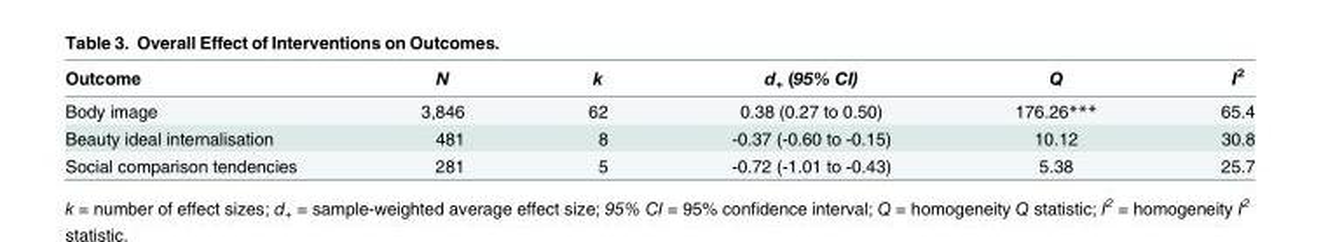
<table><thead><tr><td>Outcome</td><td>N</td><td>k</td><td>d<sub>+</sub> (95% CI)</td><td>Q</td><td>I<sup>2</sup></td></tr></thead><tbody><tr><td>Body image</td><td>3,846</td><td>62</td><td>0.38 (0.27 to 0.50)</td><td>176.26***</td><td>65.4</td></tr><tr><td>Beauty ideal internalisation</td><td>481</td><td>8</td><td>-0.37 (-0.60 to -0.15)</td><td>10.12</td><td>30.8</td></tr><tr><td>Social comparison tendencies</td><td>281</td><td>5</td><td>-0.72 (-1.01 to -0.43)</td><td>5.38</td><td>25.7</td></tr></tbody></table>